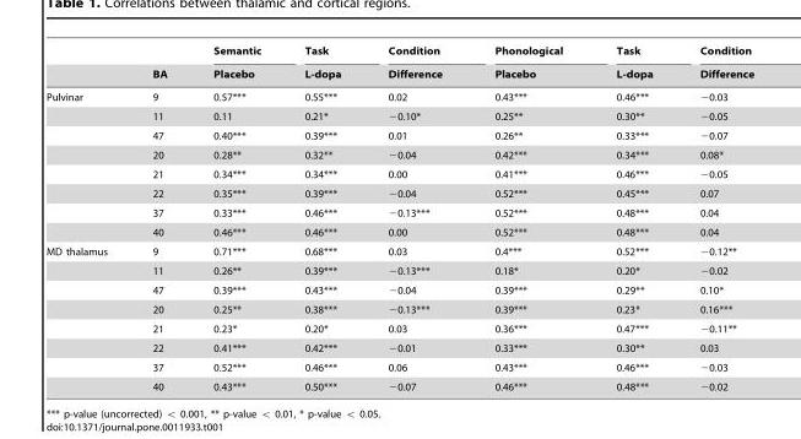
<table><thead><tr><td rowspan="2"></td><td rowspan="2">BA</td><td rowspan="2">Semantic Placebo</td><td rowspan="2">Task L-dopa</td><td rowspan="2">Condition Difference</td><td rowspan="2">Phonological Placebo</td><td rowspan="2">Task L-dopa</td><td rowspan="2">Condition Difference</td></tr><tr></tr></thead><tbody><tr><td rowspan="8">Pulvinar</td><td>9</td><td>0.57***</td><td>0.55***</td><td>0.02</td><td>0.43***</td><td>0.46***</td><td>−0.03</td></tr><tr><td>11</td><td>0.11</td><td>0.21*</td><td>−0.10*</td><td>0.25**</td><td>0.30**</td><td>−0.05</td></tr><tr><td>47</td><td>0.40***</td><td>0.39***</td><td>0.01</td><td>0.26**</td><td>0.33***</td><td>−0.07</td></tr><tr><td>20</td><td>0.28**</td><td>0.32**</td><td>−0.04</td><td>0.42***</td><td>0.34***</td><td>0.08*</td></tr><tr><td>21</td><td>0.34***</td><td>0.34***</td><td>0.00</td><td>0.41***</td><td>0.46***</td><td>−0.05</td></tr><tr><td>22</td><td>0.35***</td><td>0.39***</td><td>−0.04</td><td>0.52***</td><td>0.45***</td><td>0.07</td></tr><tr><td>37</td><td>0.33***</td><td>0.46***</td><td>−0.13***</td><td>0.52***</td><td>0.48***</td><td>0.04</td></tr><tr><td>40</td><td>0.46***</td><td>0.46***</td><td>0.00</td><td>0.52***</td><td>0.48***</td><td>0.04</td></tr><tr><td rowspan="8">MD thalamus</td><td>9</td><td>0.71***</td><td>0.68***</td><td>0.03</td><td>0.4***</td><td>0.52***</td><td>−0.12**</td></tr><tr><td>11</td><td>0.26**</td><td>0.39***</td><td>−0.13***</td><td>0.18*</td><td>0.20*</td><td>−0.02</td></tr><tr><td>47</td><td>0.39***</td><td>0.43***</td><td>−0.04</td><td>0.39***</td><td>0.29**</td><td>0.10*</td></tr><tr><td>20</td><td>0.25**</td><td>0.38***</td><td>−0.13***</td><td>0.39***</td><td>0.23*</td><td>0.16***</td></tr><tr><td>21</td><td>0.23*</td><td>0.20*</td><td>0.03</td><td>0.36***</td><td>0.47***</td><td>−0.11**</td></tr><tr><td>22</td><td>0.41***</td><td>0.42***</td><td>−0.01</td><td>0.33***</td><td>0.30**</td><td>0.03</td></tr><tr><td>37</td><td>0.52***</td><td>0.46***</td><td>0.06</td><td>0.43***</td><td>0.46***</td><td>−0.03</td></tr><tr><td>40</td><td>0.43***</td><td>0.50***</td><td>−0.07</td><td>0.46***</td><td>0.48***</td><td>−0.02</td></tr></tbody></table>